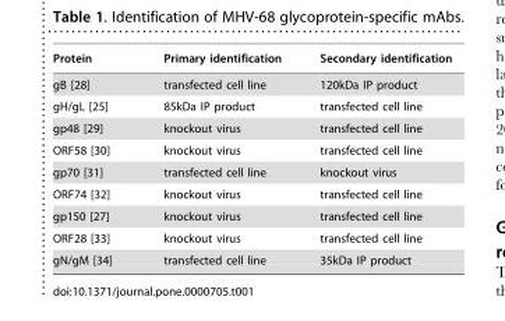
<table><thead><tr><td>Protein</td><td>Primary identification</td><td>Secondary identification</td></tr></thead><tbody><tr><td>gB [28]</td><td>transfected cell line</td><td>120kDa IP product</td></tr><tr><td>gH/gL [25]</td><td>85kDa IP product</td><td>transfected cell line</td></tr><tr><td>gp48 [29]</td><td>knockout virus</td><td>transfected cell line</td></tr><tr><td>ORF58 [30]</td><td>knockout virus</td><td>transfected cell line</td></tr><tr><td>gp70 [31]</td><td>transfected cell line</td><td>knockout virus</td></tr><tr><td>ORF74 [32]</td><td>knockout virus</td><td>transfected cell line</td></tr><tr><td>gp150 [27]</td><td>knockout virus</td><td>transfected cell line</td></tr><tr><td>ORF28 [33]</td><td>knockout virus</td><td>transfected cell line</td></tr><tr><td>gN/gM [34]</td><td>transfected cell line</td><td>35kDa IP product</td></tr></tbody></table>